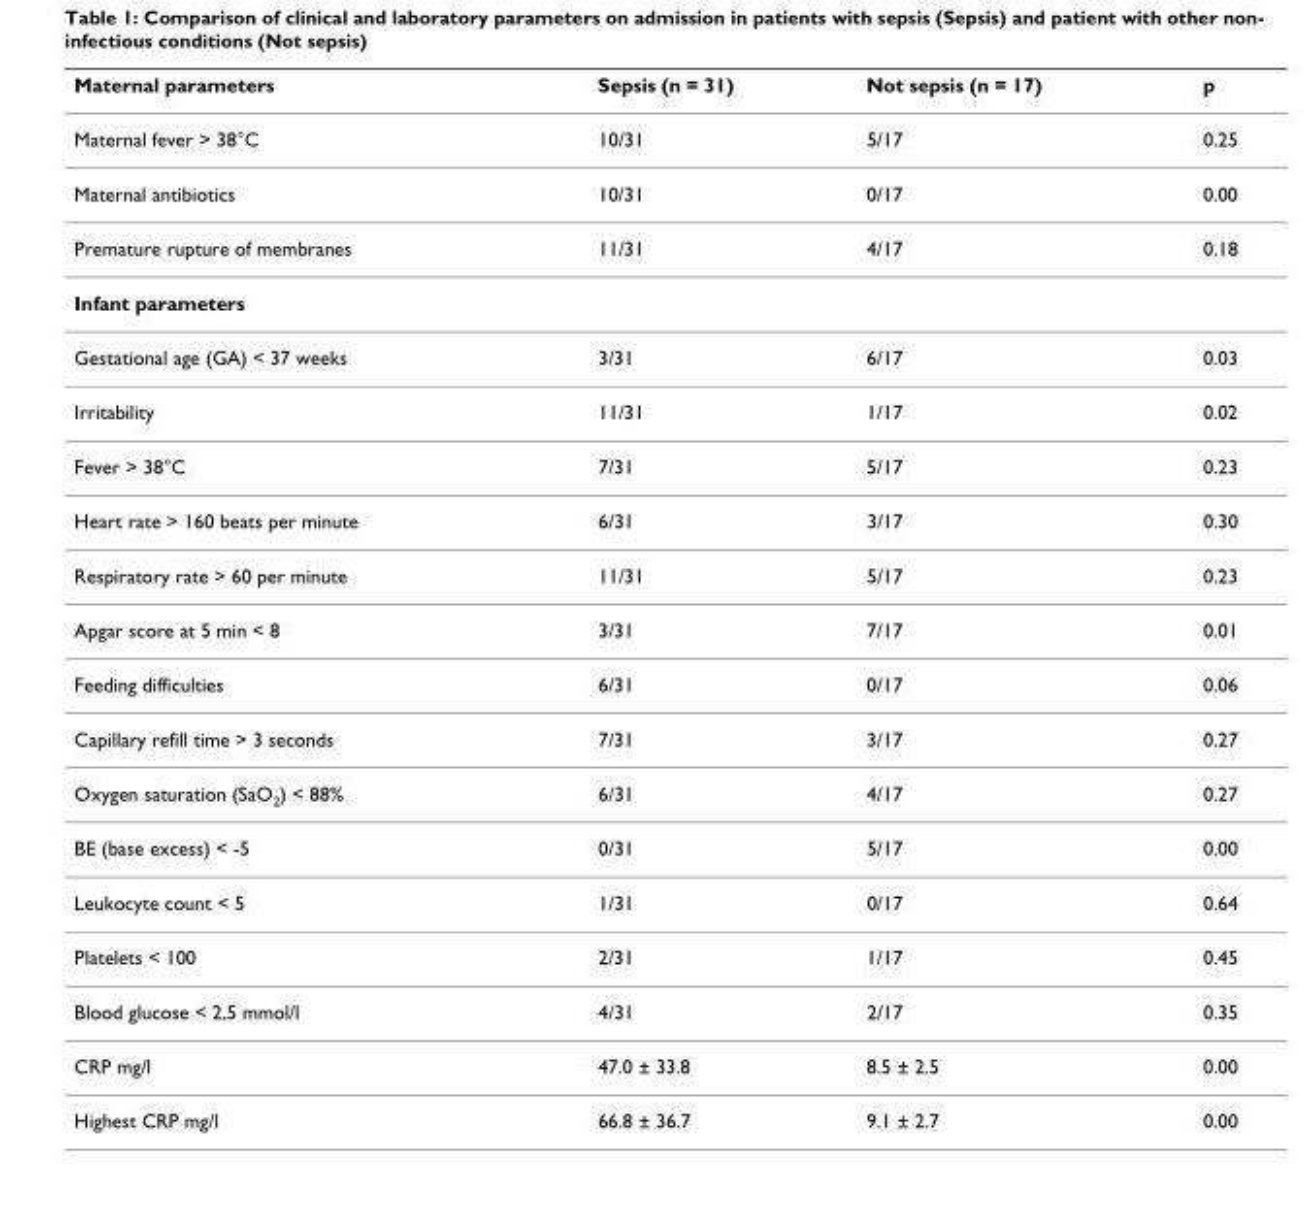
<table><thead><tr><td>Maternal parameters</td><td>Sepsis (n = 31)</td><td>Not sepsis (n = 17)</td><td>p</td></tr></thead><tbody><tr><td>Maternal fever &gt; 38°C</td><td>10/31</td><td>5/17</td><td>0.25</td></tr><tr><td>Maternal antibiotics</td><td>10/31</td><td>0/17</td><td>0.00</td></tr><tr><td>Premature rupture of membranes</td><td>11/31</td><td>4/17</td><td>0.18</td></tr><tr><td colspan="4">Infant parameters</td></tr><tr><td>Gestational age (GA) &lt; 37 weeks</td><td>3/31</td><td>6/17</td><td>0.03</td></tr><tr><td>Irritability</td><td>11/31</td><td>1/17</td><td>0.02</td></tr><tr><td>Fever &gt; 38°C</td><td>7/31</td><td>5/17</td><td>0.23</td></tr><tr><td>Heart rate &gt; 160 beats per minute</td><td>6/31</td><td>3/17</td><td>0.30</td></tr><tr><td>Respiratory rate &gt; 60 per minute</td><td>11/31</td><td>5/17</td><td>0.23</td></tr><tr><td>Apgar score at 5 min &lt; 8</td><td>3/31</td><td>7/17</td><td>0.01</td></tr><tr><td>Feeding difficulties</td><td>6/31</td><td>0/17</td><td>0.06</td></tr><tr><td>Capillary refill time &gt; 3 seconds</td><td>7/31</td><td>3/17</td><td>0.27</td></tr><tr><td>Oxygen saturation (SaO<sub>2</sub>) &lt; 88%</td><td>6/31</td><td>4/17</td><td>0.27</td></tr><tr><td>BE (base excess) &lt; -5</td><td>0/31</td><td>5/17</td><td>0.00</td></tr><tr><td>Leukocyte count &lt; 5</td><td>1/31</td><td>0/17</td><td>0.64</td></tr><tr><td>Platelets &lt; 100</td><td>2/31</td><td>1/17</td><td>0.45</td></tr><tr><td>Blood glucose &lt; 2,5 mmol/l</td><td>4/31</td><td>2/17</td><td>0.35</td></tr><tr><td>CRP mg/l</td><td>47.0 ± 33.8</td><td>8.5 ± 2.5</td><td>0.00</td></tr><tr><td>Highest CRP mg/l</td><td>66.8 ± 36.7</td><td>9.1 ± 2.7</td><td>0.00</td></tr></tbody></table>